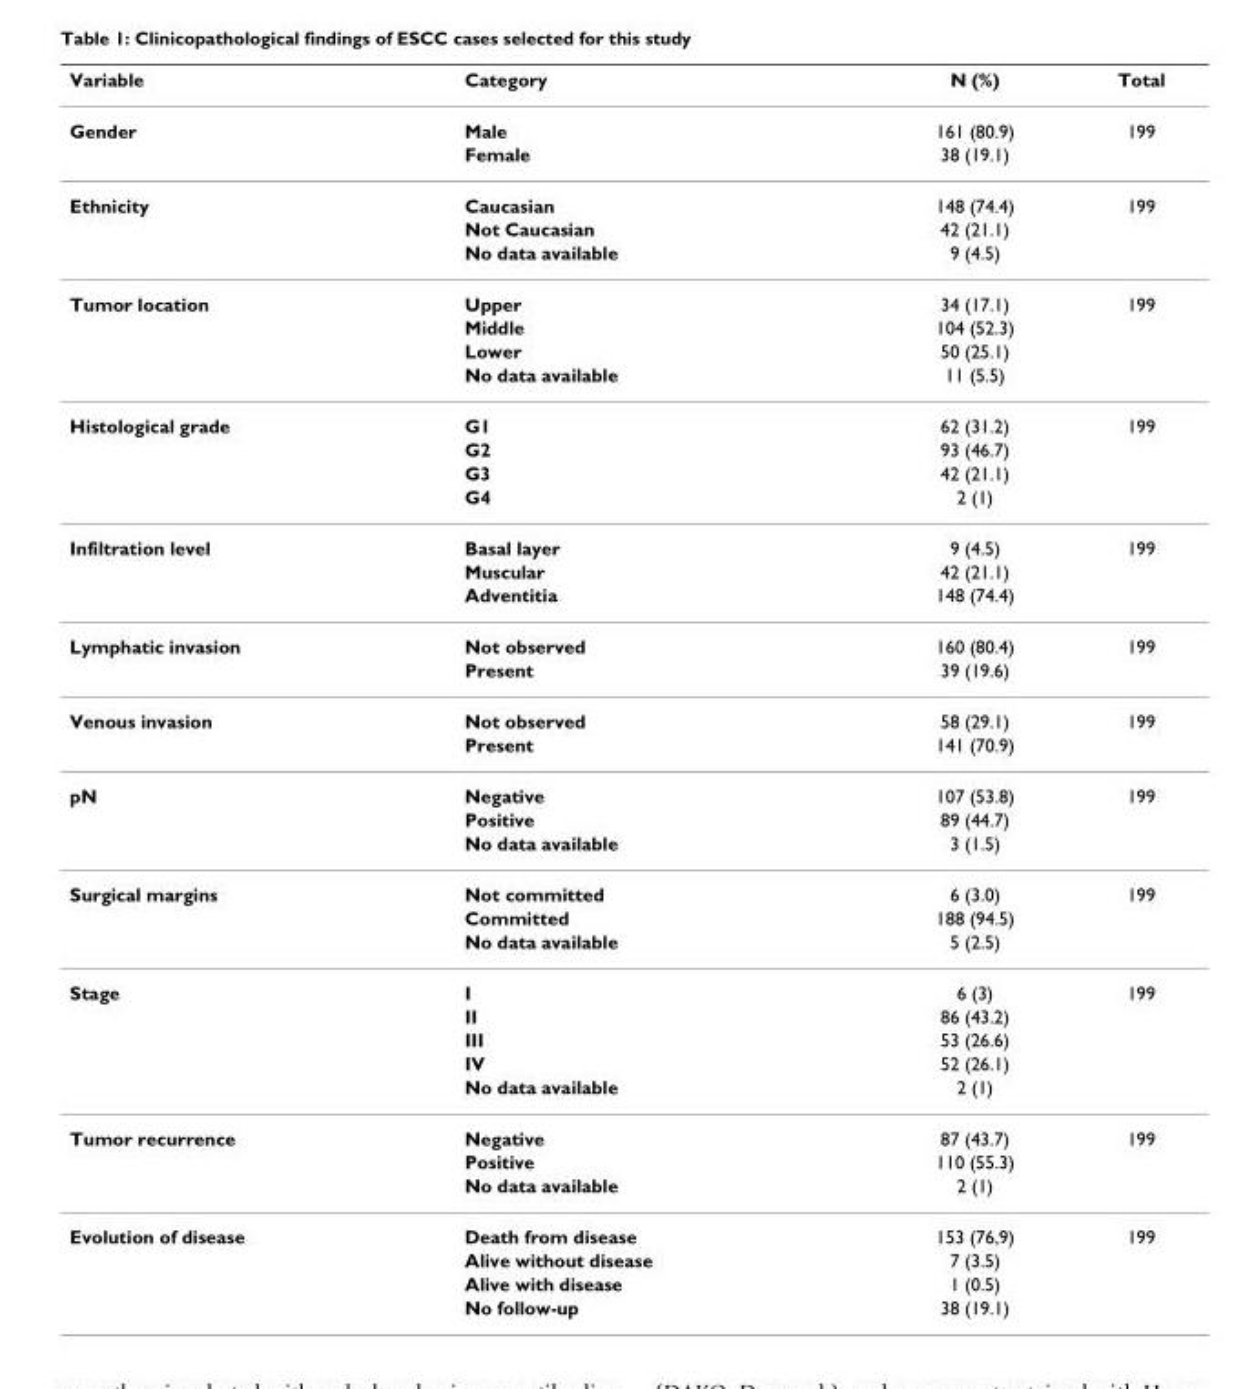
<table><thead><tr><td>Variable</td><td>Category</td><td>N (%)</td><td>Total</td></tr></thead><tbody><tr><td rowspan="2">Gender</td><td>Male</td><td>161 (80.9)</td><td>199</td></tr><tr><td>Female</td><td>38 (19.1)</td><td></td></tr><tr><td rowspan="3">Ethnicity</td><td>Caucasian</td><td>148 (74.4)</td><td>199</td></tr><tr><td>Not Caucasian</td><td>42 (21.1)</td><td></td></tr><tr><td>No data available</td><td>9 (4.5)</td><td></td></tr><tr><td rowspan="4">Tumor location</td><td>Upper</td><td>34 (17.1)</td><td>199</td></tr><tr><td>Middle</td><td>104 (52.3)</td><td></td></tr><tr><td>Lower</td><td>50 (25.1)</td><td></td></tr><tr><td>No data available</td><td>11 (5.5)</td><td></td></tr><tr><td rowspan="4">Histological grade</td><td>G1</td><td>62 (31.2)</td><td>199</td></tr><tr><td>G2</td><td>93 (46.7)</td><td></td></tr><tr><td>G3</td><td>42 (21.1)</td><td></td></tr><tr><td>G4</td><td>2 (1)</td><td></td></tr><tr><td rowspan="3">Infiltration level</td><td>Basal layer</td><td>9 (4.5)</td><td>199</td></tr><tr><td>Muscular</td><td>42 (21.1)</td><td></td></tr><tr><td>Adventitia</td><td>148 (74.4)</td><td></td></tr><tr><td rowspan="2">Lymphatic invasion</td><td>Not observed</td><td>160 (80.4)</td><td>199</td></tr><tr><td>Present</td><td>39 (19.6)</td><td></td></tr><tr><td rowspan="2">Venous invasion</td><td>Not observed</td><td>58 (29.1)</td><td>199</td></tr><tr><td>Present</td><td>141 (70.9)</td><td></td></tr><tr><td rowspan="3">pN</td><td>Negative</td><td>107 (53.8)</td><td>199</td></tr><tr><td>Positive</td><td>89 (44.7)</td><td></td></tr><tr><td>No data available</td><td>3 (1.5)</td><td></td></tr><tr><td rowspan="3">Surgical margins</td><td>Not committed</td><td>6 (3.0)</td><td>199</td></tr><tr><td>Committed</td><td>188 (94.5)</td><td></td></tr><tr><td>No data available</td><td>5 (2.5)</td><td></td></tr><tr><td rowspan="5">Stage</td><td>I</td><td>6 (3)</td><td>199</td></tr><tr><td>II</td><td>86 (43.2)</td><td></td></tr><tr><td>III</td><td>53 (26.6)</td><td></td></tr><tr><td>IV</td><td>52 (26.1)</td><td></td></tr><tr><td>No data available</td><td>2 (1)</td><td></td></tr><tr><td rowspan="3">Tumor recurrence</td><td>Negative</td><td>87 (43.7)</td><td>199</td></tr><tr><td>Positive</td><td>110 (55.3)</td><td></td></tr><tr><td>No data available</td><td>2 (1)</td><td></td></tr><tr><td rowspan="4">Evolution of disease</td><td>Death from disease</td><td>153 (76,9)</td><td>199</td></tr><tr><td>Alive without disease</td><td>7 (3.5)</td><td></td></tr><tr><td>Alive with disease</td><td>1 (0.5)</td><td></td></tr><tr><td>No follow-up</td><td>38 (19.1)</td><td></td></tr></tbody></table>